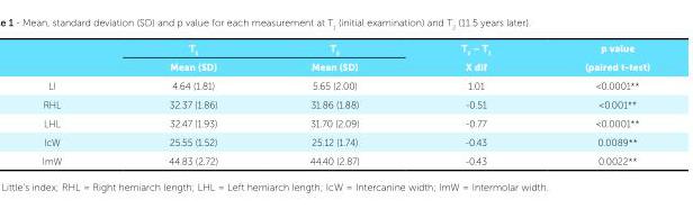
<table><thead><tr><td rowspan="2"></td><td rowspan="2">T<sub>1</sub> Mean (SD)</td><td rowspan="2">T<sub>2</sub> Mean (SD)</td><td rowspan="2">T<sub>2</sub> – T<sub>1</sub> X dif</td><td rowspan="2">p value (paired t-test)</td></tr><tr></tr></thead><tbody><tr><td>LI</td><td>4.64 (1.81)</td><td>5.65 (2.00)</td><td>1.01</td><td>&lt;0.0001**</td></tr><tr><td>RHL</td><td>32.37 (1.86)</td><td>31.86 (1.88)</td><td>-0.51</td><td>&lt;0.001**</td></tr><tr><td>LHL</td><td>32.47 (1.93)</td><td>31.70 (2.09)</td><td>-0.77</td><td>&lt;0.0001**</td></tr><tr><td>IcW</td><td>25.55 (1.52)</td><td>25.12 (1.74)</td><td>-0.43</td><td>0.0089**</td></tr><tr><td>ImW</td><td>44.83 (2.72)</td><td>44.40 (2.87)</td><td>-0.43</td><td>0.0022**</td></tr></tbody></table>